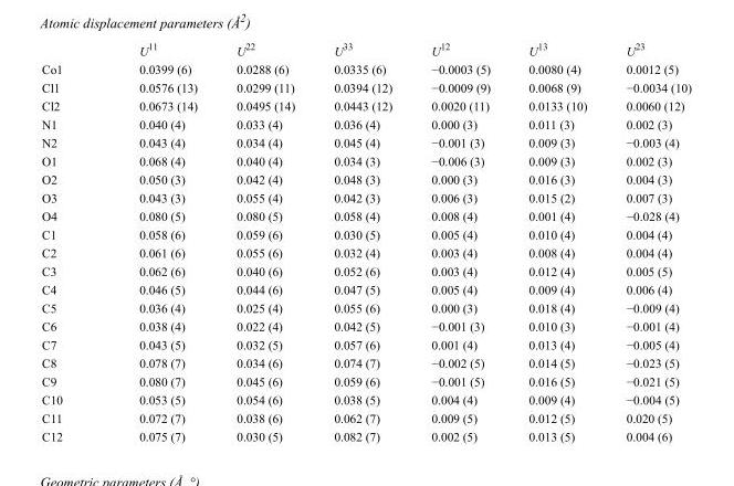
<table><thead><tr><td></td><td>U<sup>11</sup></td><td>U<sup>22</sup></td><td>U<sup>33</sup></td><td>U<sup>12</sup></td><td>U<sup>13</sup></td><td>U<sup>23</sup></td></tr></thead><tbody><tr><td>Co1</td><td>0.0399 (6)</td><td>0.0288 (6)</td><td>0.0335 (6)</td><td>−0.0003 (5)</td><td>0.0080 (4)</td><td>0.0012 (5)</td></tr><tr><td>Cl1</td><td>0.0576 (13)</td><td>0.0299 (11)</td><td>0.0394 (12)</td><td>−0.0009 (9)</td><td>0.0068 (9)</td><td>−0.0034 (10)</td></tr><tr><td>Cl2</td><td>0.0673 (14)</td><td>0.0495 (14)</td><td>0.0443 (12)</td><td>0.0020 (11)</td><td>0.0133 (10)</td><td>0.0060 (12)</td></tr><tr><td>N1</td><td>0.040 (4)</td><td>0.033 (4)</td><td>0.036 (4)</td><td>0.000 (3)</td><td>0.011 (3)</td><td>0.002 (3)</td></tr><tr><td>N2</td><td>0.043 (4)</td><td>0.034 (4)</td><td>0.045 (4)</td><td>−0.001 (3)</td><td>0.009 (3)</td><td>−0.003 (4)</td></tr><tr><td>O1</td><td>0.068 (4)</td><td>0.040 (4)</td><td>0.034 (3)</td><td>−0.006 (3)</td><td>0.009 (3)</td><td>0.002 (3)</td></tr><tr><td>O2</td><td>0.050 (3)</td><td>0.042 (4)</td><td>0.048 (3)</td><td>0.000 (3)</td><td>0.016 (3)</td><td>0.004 (3)</td></tr><tr><td>O3</td><td>0.043 (3)</td><td>0.055 (4)</td><td>0.042 (3)</td><td>0.006 (3)</td><td>0.015 (2)</td><td>0.007 (3)</td></tr><tr><td>O4</td><td>0.080 (5)</td><td>0.080 (5)</td><td>0.058 (4)</td><td>0.008 (4)</td><td>0.001 (4)</td><td>−0.028 (4)</td></tr><tr><td>C1</td><td>0.058 (6)</td><td>0.059 (6)</td><td>0.030 (5)</td><td>0.005 (4)</td><td>0.010 (4)</td><td>0.004 (4)</td></tr><tr><td>C2</td><td>0.061 (6)</td><td>0.055 (6)</td><td>0.032 (4)</td><td>0.003 (4)</td><td>0.008 (4)</td><td>0.004 (4)</td></tr><tr><td>C3</td><td>0.062 (6)</td><td>0.040 (6)</td><td>0.052 (6)</td><td>0.003 (4)</td><td>0.012 (4)</td><td>0.005 (5)</td></tr><tr><td>C4</td><td>0.046 (5)</td><td>0.044 (6)</td><td>0.047 (5)</td><td>0.005 (4)</td><td>0.009 (4)</td><td>0.006 (4)</td></tr><tr><td>C5</td><td>0.036 (4)</td><td>0.025 (4)</td><td>0.055 (6)</td><td>0.000 (3)</td><td>0.018 (4)</td><td>−0.009 (4)</td></tr><tr><td>C6</td><td>0.038 (4)</td><td>0.022 (4)</td><td>0.042 (5)</td><td>−0.001 (3)</td><td>0.010 (3)</td><td>−0.001 (4)</td></tr><tr><td>C7</td><td>0.043 (5)</td><td>0.032 (5)</td><td>0.057 (6)</td><td>0.001 (4)</td><td>0.013 (4)</td><td>−0.005 (4)</td></tr><tr><td>C8</td><td>0.078 (7)</td><td>0.034 (6)</td><td>0.074 (7)</td><td>−0.002 (5)</td><td>0.014 (5)</td><td>−0.023 (5)</td></tr><tr><td>C9</td><td>0.080 (7)</td><td>0.045 (6)</td><td>0.059 (6)</td><td>−0.001 (5)</td><td>0.016 (5)</td><td>−0.021 (5)</td></tr><tr><td>C10</td><td>0.053 (5)</td><td>0.054 (6)</td><td>0.038 (5)</td><td>0.004 (4)</td><td>0.009 (4)</td><td>−0.004 (5)</td></tr><tr><td>C11</td><td>0.072 (7)</td><td>0.038 (6)</td><td>0.062 (7)</td><td>0.009 (5)</td><td>0.012 (5)</td><td>0.020 (5)</td></tr><tr><td>C12</td><td>0.075 (7)</td><td>0.030 (5)</td><td>0.082 (7)</td><td>0.002 (5)</td><td>0.013 (5)</td><td>0.004 (6)</td></tr></tbody></table>